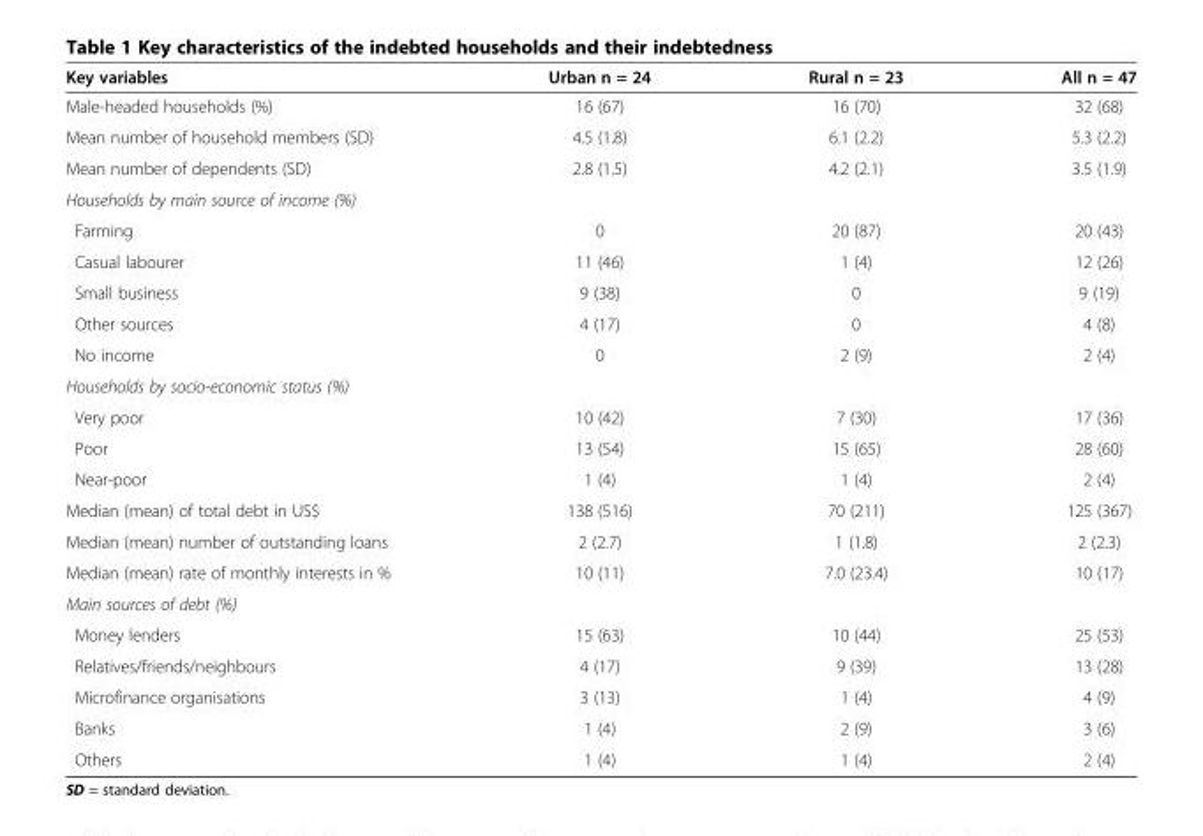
<table><thead><tr><td>Key variables</td><td>Urban n = 24</td><td>Rural n = 23</td><td>All n = 47</td></tr></thead><tbody><tr><td>Male-headed households (%)</td><td>16 (67)</td><td>16 (70)</td><td>32 (68)</td></tr><tr><td>Mean number of household members (SD)</td><td>4.5 (1.8)</td><td>6.1 (2.2)</td><td>5.3 (2.2)</td></tr><tr><td>Mean number of dependents (SD)</td><td>2.8 (1.5)</td><td>4.2 (2.1)</td><td>3.5 (1.9)</td></tr><tr><td colspan="4">Households by main source of income (%)</td></tr><tr><td>Farming</td><td>0</td><td>20 (87)</td><td>20 (43)</td></tr><tr><td>Casual labourer</td><td>11 (46)</td><td>1 (4)</td><td>12 (26)</td></tr><tr><td>Small business</td><td>9 (38)</td><td>0</td><td>9 (19)</td></tr><tr><td>Other sources</td><td>4 (17)</td><td>0</td><td>4 (8)</td></tr><tr><td>No income</td><td>0</td><td>2 (9)</td><td>2 (4)</td></tr><tr><td colspan="4">Households by socio-economic status (%)</td></tr><tr><td>Very poor</td><td>10 (42)</td><td>7 (30)</td><td>17 (36)</td></tr><tr><td>Poor</td><td>13 (54)</td><td>15 (65)</td><td>28 (60)</td></tr><tr><td>Near-poor</td><td>1 (4)</td><td>1 (4)</td><td>2 (4)</td></tr><tr><td>Median (mean) of total debt in US$</td><td>138 (516)</td><td>70 (211)</td><td>125 (367)</td></tr><tr><td>Median (mean) number of outstanding loans</td><td>2 (2.7)</td><td>1 (1.8)</td><td>2 (2.3)</td></tr><tr><td>Median (mean) rate of monthly interests in %</td><td>10 (11)</td><td>7.0 (23.4)</td><td>10 (17)</td></tr><tr><td colspan="4">Main sources of debt (%)</td></tr><tr><td>Money lenders</td><td>15 (63)</td><td>10 (44)</td><td>25 (53)</td></tr><tr><td>Relatives/friends/neighbours</td><td>4 (17)</td><td>9 (39)</td><td>13 (28)</td></tr><tr><td>Microfinance organisations</td><td>3 (13)</td><td>1 (4)</td><td>4 (9)</td></tr><tr><td>Banks</td><td>1 (4)</td><td>2 (9)</td><td>3 (6)</td></tr><tr><td>Others</td><td>1 (4)</td><td>1 (4)</td><td>2 (4)</td></tr></tbody></table>